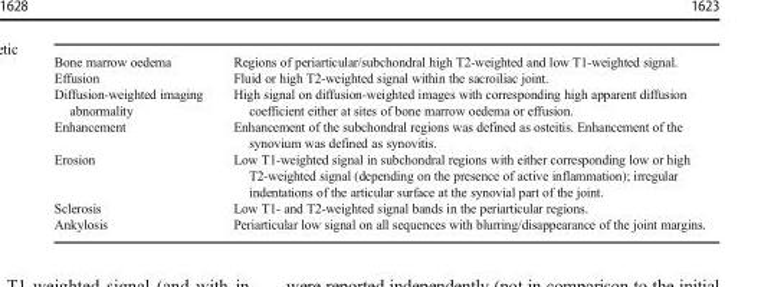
<table><tbody><tr><td>Bone marrow oedema</td><td>Regions of periarticular/subchondral high T2-weighted and low T1-weighted signal.</td></tr><tr><td>Effusion</td><td>Fluid or high T2-weighted signal within the sacroiliac joint.</td></tr><tr><td>Diffusion-weighted imaging abnormality</td><td>High signal on diffusion-weighted images with corresponding high apparent diffusion coefficient either at sites of bone marrow oedema or effusion.</td></tr><tr><td>Enhancement</td><td>Enhancement of the subchondral regions was defined as osteitis. Enhancement of the synovium was defined as synovitis.</td></tr><tr><td>Erosion</td><td>Low T1-weighted signal in subchondral regions with either corresponding low or high T2-weighted signal (depending on the presence of active inflammation); irregular indentations of the articular surface at the synovial part of the joint.</td></tr><tr><td>Sclerosis</td><td>Low T1- and T2-weighted signal bands in the periarticular regions.</td></tr><tr><td>Ankylosis</td><td>Periarticular low signal on all sequences with blurring/disappearance of the joint margins.</td></tr></tbody></table>